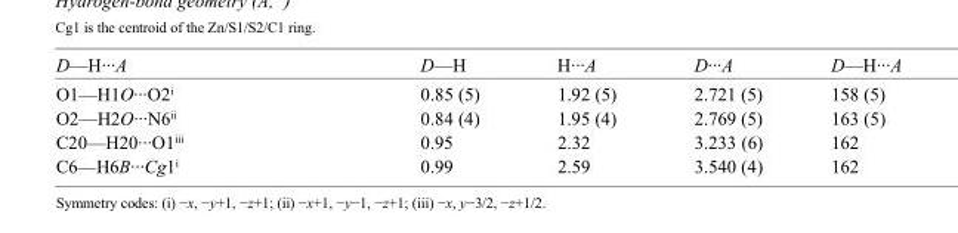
<table><tbody><tr><td>D—H···A</td><td>D—H</td><td>H···A</td><td>D···A</td><td>D—H···A</td></tr><tr><td>O1—H1O···O2<sup>i</sup></td><td>0.85 (5)</td><td>1.92 (5)</td><td>2.721 (5)</td><td>158 (5)</td></tr><tr><td>O2—H2O···N6<sup>ii</sup></td><td>0.84 (4)</td><td>1.95 (4)</td><td>2.769 (5)</td><td>163 (5)</td></tr><tr><td>C20—H20···O1<sup>iii</sup></td><td>0.95</td><td>2.32</td><td>3.233 (6)</td><td>162</td></tr><tr><td>C6—H6B···Cg1<sup>i</sup></td><td>0.99</td><td>2.59</td><td>3.540 (4)</td><td>162</td></tr></tbody></table>